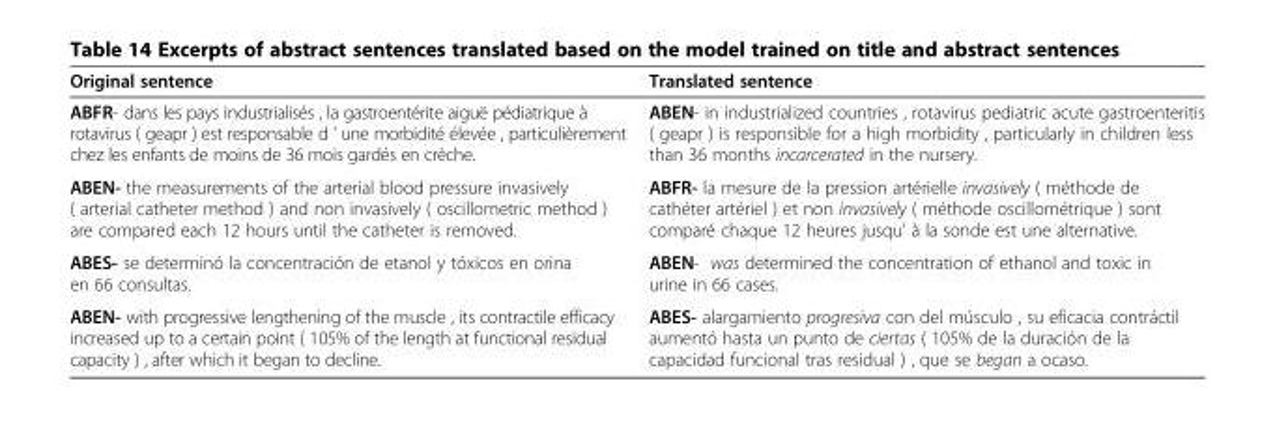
<table><thead><tr><td>Original sentence</td><td>Translated sentence</td></tr></thead><tbody><tr><td>ABFR- dans les pays industrialisés , la gastroentérite aiguë pédiatrique à rotavirus ( geapr ) est responsable d ’ une morbidité élevée , particulièrement chez les enfants de moins de 36 mois gardés en crèche.</td><td>ABEN- in industrialized countries , rotavirus pediatric acute gastroenteritis ( geapr ) is responsible for a high morbidity , particularly in children less than 36 months incarcerated in the nursery.</td></tr><tr><td>ABEN- the measurements of the arterial blood pressure invasively ( arterial catheter method ) and non invasively ( oscillometric method ) are compared each 12 hours until the catheter is removed.</td><td>ABFR- la mesure de la pression artérielle invasively ( méthode de cathéter artériel ) et non invasively ( méthode oscillométrique ) sont comparé chaque 12 heures jusqu&#x27; à la sonde est une alternative.</td></tr><tr><td>ABES- se determinó la concentración de etanol y tóxicos en orina en 66 consultas.</td><td>ABEN- was determined the concentration of ethanol and toxic in urine in 66 cases.</td></tr><tr><td>ABEN- with progressive lengthening of the muscle , its contractile efficacy increased up to a certain point ( 105% of the length at functional residual capacity ) , after which it began to decline.</td><td>ABES- alargamiento progresiva con del músculo , su eficacia contráctil aumentó hasta un punto de ciertas ( 105% de la duración de la capacidad funcional tras residual ) , que se began a ocaso.</td></tr></tbody></table>